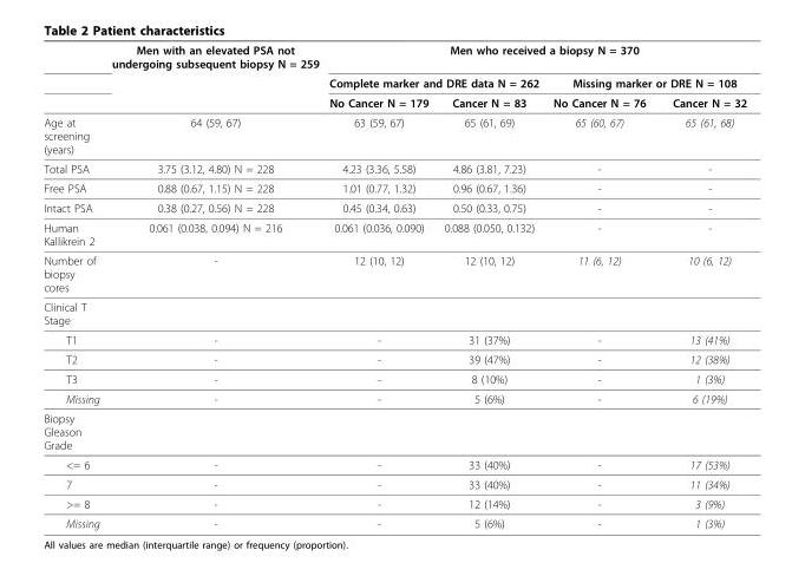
<table><thead><tr><td rowspan="3"></td><td rowspan="3">Men with an elevated PSA not undergoing subsequent biopsy N = 259</td><td colspan="4">Men who received a biopsy N = 370</td></tr><tr><td colspan="2">Complete marker and DRE data N = 262</td><td colspan="2">Missing marker or DRE N = 108</td></tr><tr><td>No Cancer N = 179</td><td>Cancer N = 83</td><td>No Cancer N = 76</td><td>Cancer N = 32</td></tr></thead><tbody><tr><td>Age at screening (years)</td><td>64 (59, 67)</td><td>63 (59, 67)</td><td>65 (61, 69)</td><td>65 (60, 67)</td><td>65 (61, 68)</td></tr><tr><td>Total PSA</td><td>3.75 (3.12, 4.80) N = 228</td><td>4.23 (3.36, 5.58)</td><td>4.86 (3.81, 7.23)</td><td>-</td><td>-</td></tr><tr><td>Free PSA</td><td>0.88 (0.67, 1.15) N = 228</td><td>1.01 (0.77, 1.32)</td><td>0.96 (0.67, 1.36)</td><td>-</td><td>-</td></tr><tr><td>Intact PSA</td><td>0.38 (0.27, 0.56) N = 228</td><td>0.45 (0.34, 0.63)</td><td>0.50 (0.33, 0.75)</td><td>-</td><td>-</td></tr><tr><td>Human Kallikrein 2</td><td>0.061 (0.038, 0.094) N = 216</td><td>0.061 (0.036, 0.090)</td><td>0.088 (0.050, 0.132)</td><td>-</td><td>-</td></tr><tr><td>Number of biopsy cores</td><td>-</td><td>12 (10, 12)</td><td>12 (10, 12)</td><td>11 (6, 12)</td><td>10 (6, 12)</td></tr><tr><td colspan="6">Clinical T Stage</td></tr><tr><td>T1</td><td>-</td><td>-</td><td>31 (37%)</td><td>-</td><td>13 (41%)</td></tr><tr><td>T2</td><td>-</td><td>-</td><td>39 (47%)</td><td>-</td><td>12 (38%)</td></tr><tr><td>T3</td><td>-</td><td>-</td><td>8 (10%)</td><td>-</td><td>1 (3%)</td></tr><tr><td>Missing</td><td>-</td><td>-</td><td>5 (6%)</td><td>-</td><td>6 (19%)</td></tr><tr><td colspan="6">Biopsy Gleason Grade</td></tr><tr><td>&lt;= 6</td><td>-</td><td>-</td><td>33 (40%)</td><td>-</td><td>17 (53%)</td></tr><tr><td>7</td><td>-</td><td>-</td><td>33 (40%)</td><td>-</td><td>11 (34%)</td></tr><tr><td>&gt;= 8</td><td>-</td><td>-</td><td>12 (14%)</td><td>-</td><td>3 (9%)</td></tr><tr><td>Missing</td><td>-</td><td>-</td><td>5 (6%)</td><td>-</td><td>1 (3%)</td></tr></tbody></table>